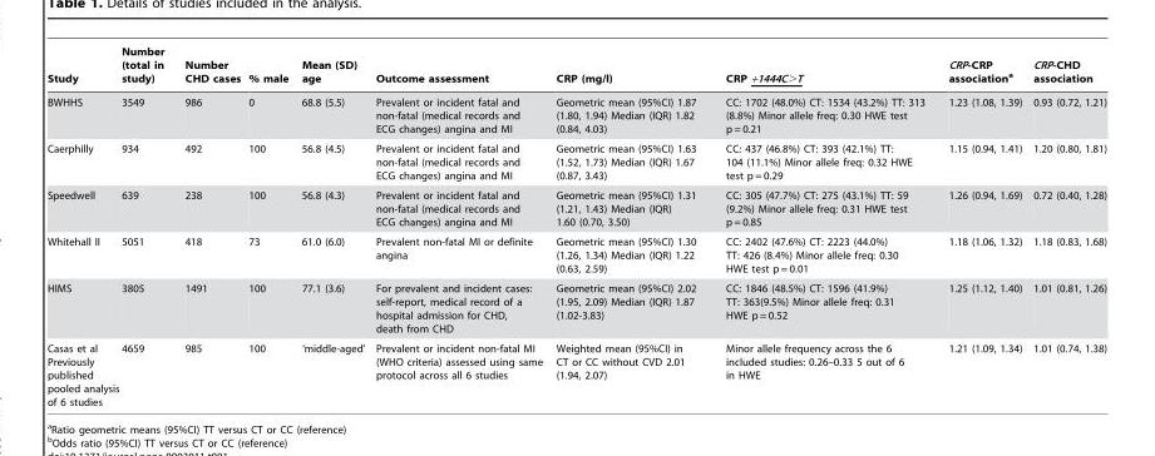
<table><thead><tr><td>Study</td><td>Number (total in study)</td><td>Number CHD cases</td><td>% male</td><td>Mean (SD) age</td><td>Outcome assessment</td><td>CRP (mg/l)</td><td>CRP +1444C&gt;T</td><td>CRP-CRP association<sup>a</sup></td><td>CRP-CHD association</td></tr></thead><tbody><tr><td>BWHHS</td><td>3549</td><td>986</td><td>0</td><td>68.8 (5.5)</td><td>Prevalent or incident fatal and non-fatal (medical records and ECG changes) angina and MI</td><td>Geometric mean (95%CI) 1.87 (1.80, 1.94) Median (IQR) 1.82 (0.84, 4.03)</td><td>CC: 1702 (48.0%) CT: 1534 (43.2%) TT: 313 (8.8%) Minor allele freq: 0.30 HWE test p = 0.21</td><td>1.23 (1.08, 1.39)</td><td>0.93 (0.72, 1.21)</td></tr><tr><td>Caerphilly</td><td>934</td><td>492</td><td>100</td><td>56.8 (4.5)</td><td>Prevalent or incident fatal and non-fatal (medical records and ECG changes) angina and MI</td><td>Geometric mean (95%CI) 1.63 (1.52, 1.73) Median (IQR) 1.67 (0.87, 3.43)</td><td>CC: 437 (46.8%) CT: 393 (42.1%) TT: 104 (11.1%) Minor allele freq: 0.32 HWE test p = 0.29</td><td>1.15 (0.94, 1.41)</td><td>1.20 (0.80, 1.81)</td></tr><tr><td>Speedwell</td><td>639</td><td>238</td><td>100</td><td>56.8 (4.3)</td><td>Prevalent or incident fatal and non-fatal (medical records and ECG changes) angina and MI</td><td>Geometric mean (95%CI) 1.31 (1.21, 1.43) Median (IQR) 1.60 (0.70, 3.50)</td><td>CC: 305 (47.7%) CT: 275 (43.1%) TT: 59 (9.2%) Minor allele freq: 0.31 HWE test p = 0.85</td><td>1.26 (0.94, 1.69)</td><td>0.72 (0.40, 1.28)</td></tr><tr><td>Whitehall II</td><td>5051</td><td>418</td><td>73</td><td>61.0 (6.0)</td><td>Prevalent non-fatal MI or definite angina</td><td>Geometric mean (95%CI) 1.30 (1.26, 1.34) Median (IQR) 1.22 (0.63, 2.59)</td><td>CC: 2402 (47.6%) CT: 2223 (44.0%) TT: 426 (8.4%) Minor allele freq: 0.30 HWE test p = 0.01</td><td>1.18 (1.06, 1.32)</td><td>1.18 (0.83, 1.68)</td></tr><tr><td>HIMS</td><td>3805</td><td>1491</td><td>100</td><td>77.1 (3.6)</td><td>For prevalent and incident cases: self-report, medical record of a hospital admission for CHD, death from CHD</td><td>Geometric mean (95%CI) 2.02 (1.95, 2.09) Median (IQR) 1.87 (1.02-3.83)</td><td>CC: 1846 (48.5%) CT: 1596 (41.9%) TT: 363(9.5%) Minor allele freq: 0.31 HWE p = 0.52</td><td>1.25 (1.12, 1.40)</td><td>1.01 (0.81, 1.26)</td></tr><tr><td>Casas et al Previously published pooled analysis of 6 studies</td><td>4659</td><td>985</td><td>100</td><td>‘middle-aged’</td><td>Prevalent or incident non-fatal MI (WHO criteria) assessed using same protocol across all 6 studies</td><td>Weighted mean (95%CI) in CT or CC without CVD 2.01 (1.94, 2.07)</td><td>Minor allele frequency across the 6 included studies: 0.26–0.33 5 out of 6 in HWE</td><td>1.21 (1.09, 1.34)</td><td>1.01 (0.74, 1.38)</td></tr></tbody></table>